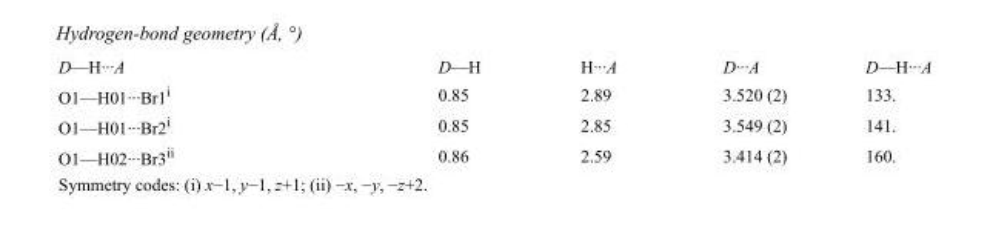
<table><tbody><tr><td>D—H···A</td><td>D—H</td><td>H···A</td><td>D···A</td><td>D—H···A</td></tr><tr><td>O1—H01···Br1<sup>i</sup></td><td>0.85</td><td>2.89</td><td>3.520 (2)</td><td>133.</td></tr><tr><td>O1—H01···Br2<sup>i</sup></td><td>0.85</td><td>2.85</td><td>3.549 (2)</td><td>141.</td></tr><tr><td>O1—H02···Br3<sup>ii</sup></td><td>0.86</td><td>2.59</td><td>3.414 (2)</td><td>160.</td></tr></tbody></table>